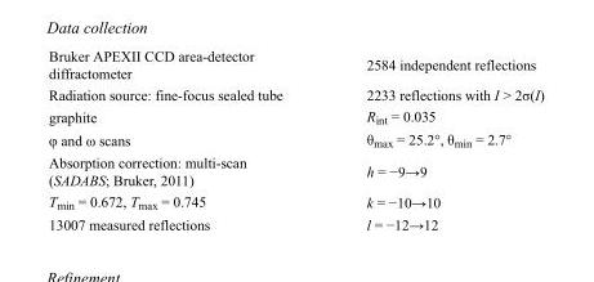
<table><tbody><tr><td>Bruker APEXII CCD area-detector diffractometer</td><td>2584 independent reflections</td></tr><tr><td>Radiation source: fine-focus sealed tube</td><td>2233 reflections with I &gt; 2σ(I)</td></tr><tr><td>graphite</td><td>R<sub>int</sub> = 0.035</td></tr><tr><td>φ and ω scans</td><td>θ<sub>max</sub> = 25.2°, θ<sub>min</sub> = 2.7°</td></tr><tr><td>Absorption correction: multi-scan (SADABS; Bruker, 2011)</td><td>h = −9→9</td></tr><tr><td>T<sub>min</sub> = 0.672, T<sub>max</sub> = 0.745</td><td>k = −10→10</td></tr><tr><td>13007 measured reflections</td><td>l = −12→12</td></tr></tbody></table>